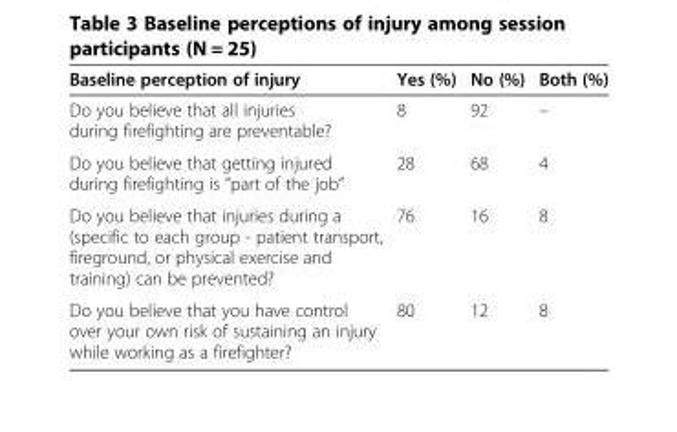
<table><thead><tr><td>Baseline perception of injury</td><td>Yes (%)</td><td>No (%)</td><td>Both (%)</td></tr></thead><tbody><tr><td>Do you believe that all injuries during firefighting are preventable?</td><td>8</td><td>92</td><td>–</td></tr><tr><td>Do you believe that getting injured during firefighting is “part of the job”</td><td>28</td><td>68</td><td>4</td></tr><tr><td>Do you believe that injuries during a (specific to each group - patient transport, fireground, or physical exercise and training) can be prevented?</td><td>76</td><td>16</td><td>8</td></tr><tr><td>Do you believe that you have control over your own risk of sustaining an injury while working as a firefighter?</td><td>80</td><td>12</td><td>8</td></tr></tbody></table>